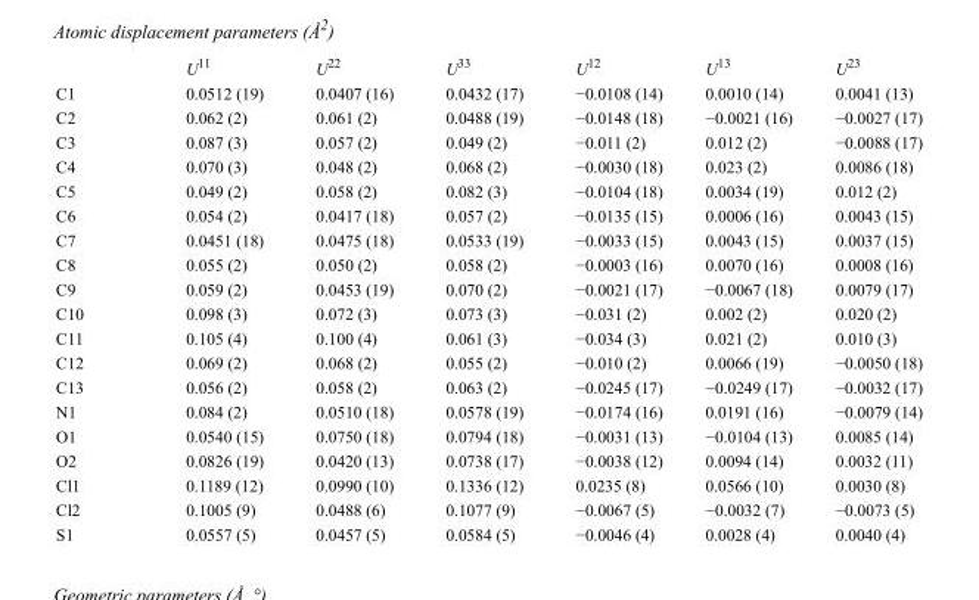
<table><thead><tr><td></td><td>U<sup>11</sup></td><td>U<sup>22</sup></td><td>U<sup>33</sup></td><td>U<sup>12</sup></td><td>U<sup>13</sup></td><td>U<sup>23</sup></td></tr></thead><tbody><tr><td>C1</td><td>0.0512 (19)</td><td>0.0407 (16)</td><td>0.0432 (17)</td><td>−0.0108 (14)</td><td>0.0010 (14)</td><td>0.0041 (13)</td></tr><tr><td>C2</td><td>0.062 (2)</td><td>0.061 (2)</td><td>0.0488 (19)</td><td>−0.0148 (18)</td><td>−0.0021 (16)</td><td>−0.0027 (17)</td></tr><tr><td>C3</td><td>0.087 (3)</td><td>0.057 (2)</td><td>0.049 (2)</td><td>−0.011 (2)</td><td>0.012 (2)</td><td>−0.0088 (17)</td></tr><tr><td>C4</td><td>0.070 (3)</td><td>0.048 (2)</td><td>0.068 (2)</td><td>−0.0030 (18)</td><td>0.023 (2)</td><td>0.0086 (18)</td></tr><tr><td>C5</td><td>0.049 (2)</td><td>0.058 (2)</td><td>0.082 (3)</td><td>−0.0104 (18)</td><td>0.0034 (19)</td><td>0.012 (2)</td></tr><tr><td>C6</td><td>0.054 (2)</td><td>0.0417 (18)</td><td>0.057 (2)</td><td>−0.0135 (15)</td><td>0.0006 (16)</td><td>0.0043 (15)</td></tr><tr><td>C7</td><td>0.0451 (18)</td><td>0.0475 (18)</td><td>0.0533 (19)</td><td>−0.0033 (15)</td><td>0.0043 (15)</td><td>0.0037 (15)</td></tr><tr><td>C8</td><td>0.055 (2)</td><td>0.050 (2)</td><td>0.058 (2)</td><td>−0.0003 (16)</td><td>0.0070 (16)</td><td>0.0008 (16)</td></tr><tr><td>C9</td><td>0.059 (2)</td><td>0.0453 (19)</td><td>0.070 (2)</td><td>−0.0021 (17)</td><td>−0.0067 (18)</td><td>0.0079 (17)</td></tr><tr><td>C10</td><td>0.098 (3)</td><td>0.072 (3)</td><td>0.073 (3)</td><td>−0.031 (2)</td><td>0.002 (2)</td><td>0.020 (2)</td></tr><tr><td>C11</td><td>0.105 (4)</td><td>0.100 (4)</td><td>0.061 (3)</td><td>−0.034 (3)</td><td>0.021 (2)</td><td>0.010 (3)</td></tr><tr><td>C12</td><td>0.069 (2)</td><td>0.068 (2)</td><td>0.055 (2)</td><td>−0.010 (2)</td><td>0.0066 (19)</td><td>−0.0050 (18)</td></tr><tr><td>C13</td><td>0.056 (2)</td><td>0.058 (2)</td><td>0.063 (2)</td><td>−0.0245 (17)</td><td>−0.0249 (17)</td><td>−0.0032 (17)</td></tr><tr><td>N1</td><td>0.084 (2)</td><td>0.0510 (18)</td><td>0.0578 (19)</td><td>−0.0174 (16)</td><td>0.0191 (16)</td><td>−0.0079 (14)</td></tr><tr><td>O1</td><td>0.0540 (15)</td><td>0.0750 (18)</td><td>0.0794 (18)</td><td>−0.0031 (13)</td><td>−0.0104 (13)</td><td>0.0085 (14)</td></tr><tr><td>O2</td><td>0.0826 (19)</td><td>0.0420 (13)</td><td>0.0738 (17)</td><td>−0.0038 (12)</td><td>0.0094 (14)</td><td>0.0032 (11)</td></tr><tr><td>Cl1</td><td>0.1189 (12)</td><td>0.0990 (10)</td><td>0.1336 (12)</td><td>0.0235 (8)</td><td>0.0566 (10)</td><td>0.0030 (8)</td></tr><tr><td>Cl2</td><td>0.1005 (9)</td><td>0.0488 (6)</td><td>0.1077 (9)</td><td>−0.0067 (5)</td><td>−0.0032 (7)</td><td>−0.0073 (5)</td></tr><tr><td>S1</td><td>0.0557 (5)</td><td>0.0457 (5)</td><td>0.0584 (5)</td><td>−0.0046 (4)</td><td>0.0028 (4)</td><td>0.0040 (4)</td></tr></tbody></table>